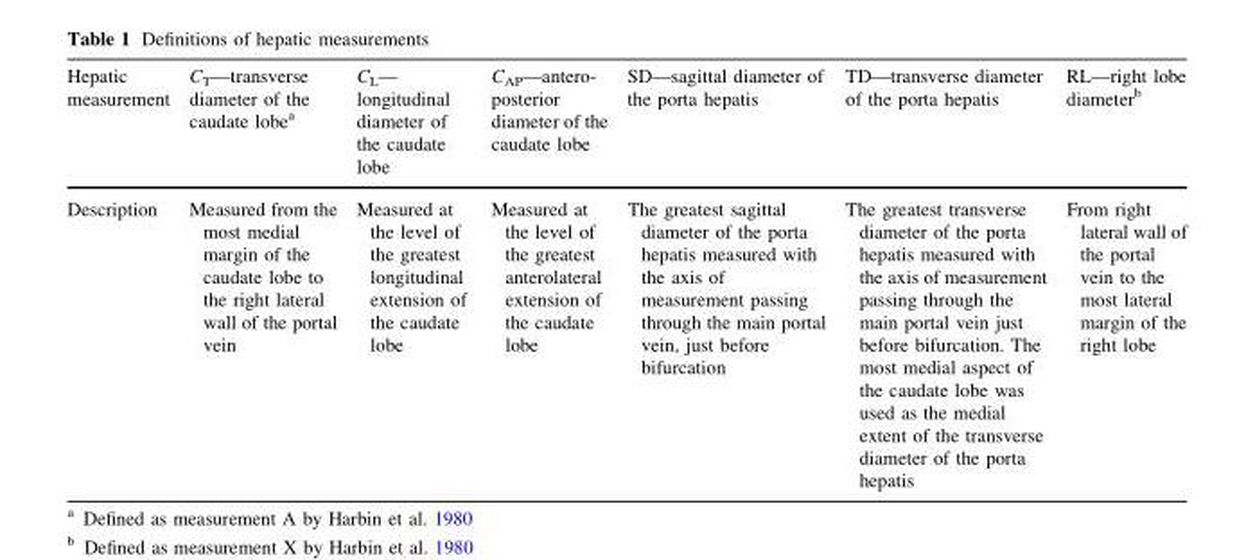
<table><thead><tr><td>Hepatic measurement</td><td>C<sub>T</sub>—transverse diameter of the caudate lobe<sup>a</sup></td><td>C<sub>L</sub>— longitudinal diameter of the caudate lobe</td><td>C<sub>AP</sub>—antero- posterior diameter of the caudate lobe</td><td>SD—sagittal diameter of the porta hepatis</td><td>TD—transverse diameter of the porta hepatis</td><td>RL—right lobe diameter<sup>b</sup></td></tr></thead><tbody><tr><td>Description</td><td>Measured from the most medial margin of the caudate lobe to the right lateral wall of the portal vein</td><td>Measured at the level of the greatest longitudinal extension of the caudate lobe</td><td>Measured at the level of the greatest anterolateral extension of the caudate lobe</td><td>The greatest sagittal diameter of the porta hepatis measured with the axis of measurement passing through the main portal vein, just before bifurcation</td><td>The greatest transverse diameter of the porta hepatis measured with the axis of measurement passing through the main portal vein just before bifurcation. The most medial aspect of the caudate lobe was used as the medial extent of the transverse diameter of the porta hepatis</td><td>From right lateral wall of the portal vein to the most lateral margin of the right lobe</td></tr></tbody></table>